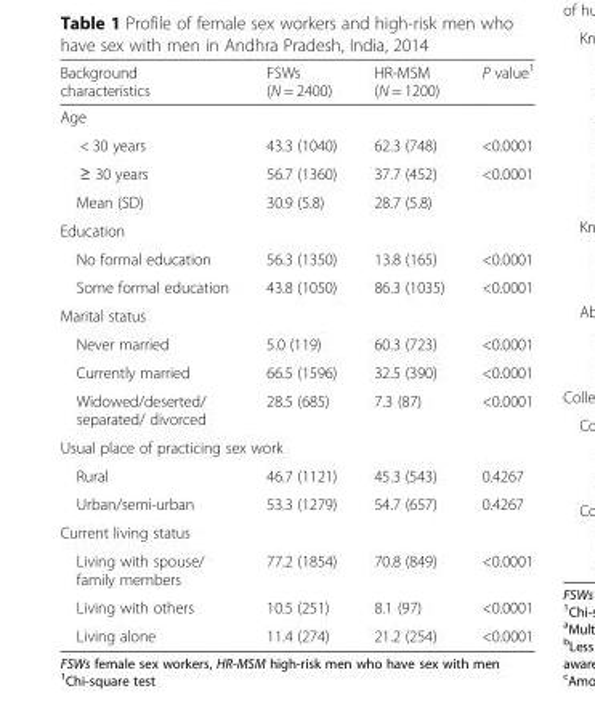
<table><thead><tr><td>Background characteristics</td><td>FSWs (N = 2400)</td><td>HR-MSM (N = 1200)</td><td>P value<sup>1</sup></td></tr></thead><tbody><tr><td colspan="4">Age</td></tr><tr><td>&lt; 30 years</td><td>43.3 (1040)</td><td>62.3 (748)</td><td>&lt;0.0001</td></tr><tr><td>≥ 30 years</td><td>56.7 (1360)</td><td>37.7 (452)</td><td>&lt;0.0001</td></tr><tr><td>Mean (SD)</td><td>30.9 (5.8)</td><td>28.7 (5.8)</td><td></td></tr><tr><td colspan="4">Education</td></tr><tr><td>No formal education</td><td>56.3 (1350)</td><td>13.8 (165)</td><td>&lt;0.0001</td></tr><tr><td>Some formal education</td><td>43.8 (1050)</td><td>86.3 (1035)</td><td>&lt;0.0001</td></tr><tr><td colspan="4">Marital status</td></tr><tr><td>Never married</td><td>5.0 (119)</td><td>60.3 (723)</td><td>&lt;0.0001</td></tr><tr><td>Currently married</td><td>66.5 (1596)</td><td>32.5 (390)</td><td>&lt;0.0001</td></tr><tr><td>Widowed/deserted/ separated/ divorced</td><td>28.5 (685)</td><td>7.3 (87)</td><td>&lt;0.0001</td></tr><tr><td colspan="4">Usual place of practicing sex work</td></tr><tr><td>Rural</td><td>46.7 (1121)</td><td>45.3 (543)</td><td>0.4267</td></tr><tr><td>Urban/semi-urban</td><td>53.3 (1279)</td><td>54.7 (657)</td><td>0.4267</td></tr><tr><td colspan="4">Current living status</td></tr><tr><td>Living with spouse/ family members</td><td>77.2 (1854)</td><td>70.8 (849)</td><td>&lt;0.0001</td></tr><tr><td>Living with others</td><td>10.5 (251)</td><td>8.1 (97)</td><td>&lt;0.0001</td></tr><tr><td>Living alone</td><td>11.4 (274)</td><td>21.2 (254)</td><td>&lt;0.0001</td></tr></tbody></table>